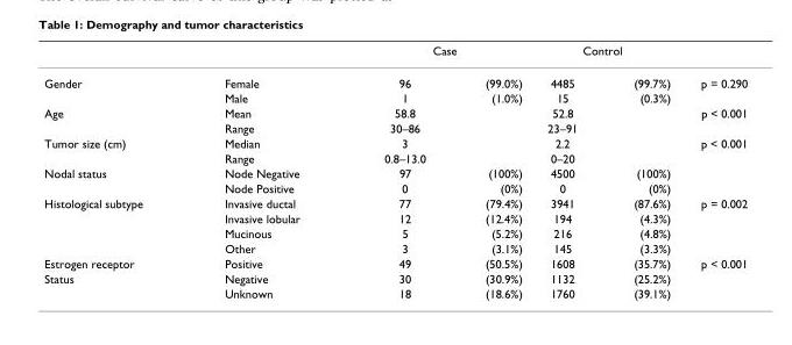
<table><thead><tr><td rowspan="2">Gender</td><td rowspan="2">Female</td><td colspan="2">Case</td><td colspan="2">Control</td><td rowspan="2">p = 0.290</td></tr><tr><td>96</td><td>(99.0%)</td><td>4485</td><td>(99.7%)</td></tr></thead><tbody><tr><td></td><td>Male</td><td>1</td><td>(1.0%)</td><td>15</td><td>(0.3%)</td><td></td></tr><tr><td rowspan="2">Age</td><td>Mean</td><td>58.8</td><td></td><td>52.8</td><td></td><td>p &lt; 0.001</td></tr><tr><td>Range</td><td>30–86</td><td></td><td>23–91</td><td></td><td></td></tr><tr><td rowspan="2">Tumor size (cm)</td><td>Median</td><td>3</td><td></td><td>2.2</td><td></td><td>p &lt; 0.001</td></tr><tr><td>Range</td><td>0.8–13.0</td><td></td><td>0–20</td><td></td><td></td></tr><tr><td rowspan="2">Nodal status</td><td>Node Negative</td><td>97</td><td>(100%)</td><td>4500</td><td>(100%)</td><td></td></tr><tr><td>Node Positive</td><td>0</td><td>(0%)</td><td>0</td><td>(0%)</td><td></td></tr><tr><td rowspan="4">Histological subtype</td><td>Invasive ductal</td><td>77</td><td>(79.4%)</td><td>3941</td><td>(87.6%)</td><td>p = 0.002</td></tr><tr><td>Invasive lobular</td><td>12</td><td>(12.4%)</td><td>194</td><td>(4.3%)</td><td></td></tr><tr><td>Mucinous</td><td>5</td><td>(5.2%)</td><td>216</td><td>(4.8%)</td><td></td></tr><tr><td>Other</td><td>3</td><td>(3.1%)</td><td>145</td><td>(3.3%)</td><td></td></tr><tr><td>Estrogen receptor</td><td>Positive</td><td>49</td><td>(50.5%)</td><td>1608</td><td>(35.7%)</td><td>p &lt; 0.001</td></tr><tr><td rowspan="2">Status</td><td>Negative</td><td>30</td><td>(30.9%)</td><td>1132</td><td>(25.2%)</td><td></td></tr><tr><td>Unknown</td><td>18</td><td>(18.6%)</td><td>1760</td><td>(39.1%)</td><td></td></tr></tbody></table>